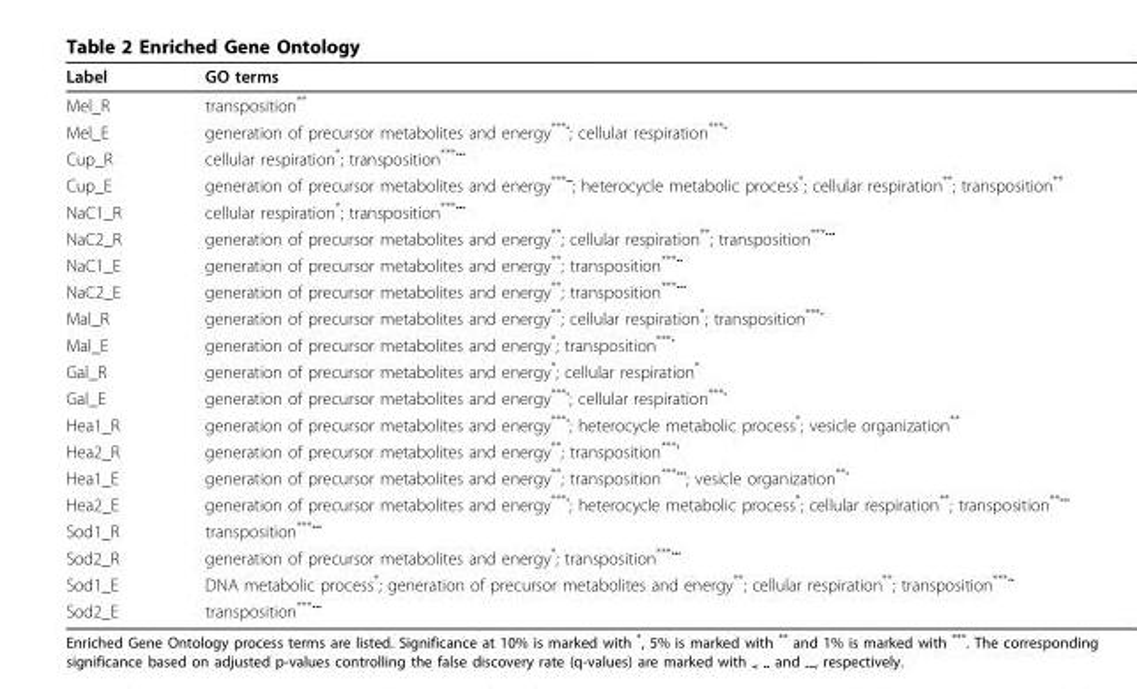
<table><thead><tr><td>Label</td><td>GO terms</td></tr></thead><tbody><tr><td>Mel_R</td><td>transposition**</td></tr><tr><td>Mel_E</td><td>generation of precursor metabolites and energy<sup>***•</sup>; cellular respiration<sup>***•</sup></td></tr><tr><td>Cup_R</td><td>cellular respiration*; transposition<sup>***•••</sup></td></tr><tr><td>Cup_E</td><td>generation of precursor metabolites and energy<sup>***••</sup>; heterocycle metabolic process*; cellular respiration**; transposition**</td></tr><tr><td>NaC1_R</td><td>cellular respiration*; transposition<sup>***•••</sup></td></tr><tr><td>NaC2_R</td><td>generation of precursor metabolites and energy**; cellular respiration**; transposition<sup>***•••</sup></td></tr><tr><td>NaC1_E</td><td>generation of precursor metabolites and energy**; transposition<sup>***••</sup></td></tr><tr><td>NaC2_E</td><td>generation of precursor metabolites and energy**; transposition<sup>***•••</sup></td></tr><tr><td>Mal_R</td><td>generation of precursor metabolites and energy**; cellular respiration*; transposition<sup>***•</sup></td></tr><tr><td>Mal_E</td><td>generation of precursor metabolites and energy*; transposition<sup>***•</sup></td></tr><tr><td>Gal_R</td><td>generation of precursor metabolites and energy*; cellular respiration*</td></tr><tr><td>Gal_E</td><td>generation of precursor metabolites and energy<sup>***•</sup>; cellular respiration<sup>***•</sup></td></tr><tr><td>Hea1_R</td><td>generation of precursor metabolites and energy<sup>***•</sup>; heterocycle metabolic process*; vesicle organization**</td></tr><tr><td>Hea2_R</td><td>generation of precursor metabolites and energy**; transposition<sup>***•</sup></td></tr><tr><td>Hea1_E</td><td>generation of precursor metabolites and energy**; transposition<sup>***•••</sup>; vesicle organization<sup>**•</sup></td></tr><tr><td>Hea2_E</td><td>generation of precursor metabolites and energy<sup>***•</sup>; heterocycle metabolic process*; cellular respiration**; transposition<sup>**•••</sup></td></tr><tr><td>Sod1_R</td><td>transposition<sup>***•••</sup></td></tr><tr><td>Sod2_R</td><td>generation of precursor metabolites and energy*; transposition<sup>***•••</sup></td></tr><tr><td>Sod1_E</td><td>DNA metabolic process*; generation of precursor metabolites and energy**; cellular respiration**; transposition<sup>***••</sup></td></tr><tr><td>Sod2_E</td><td>transposition<sup>***•••</sup></td></tr></tbody></table>